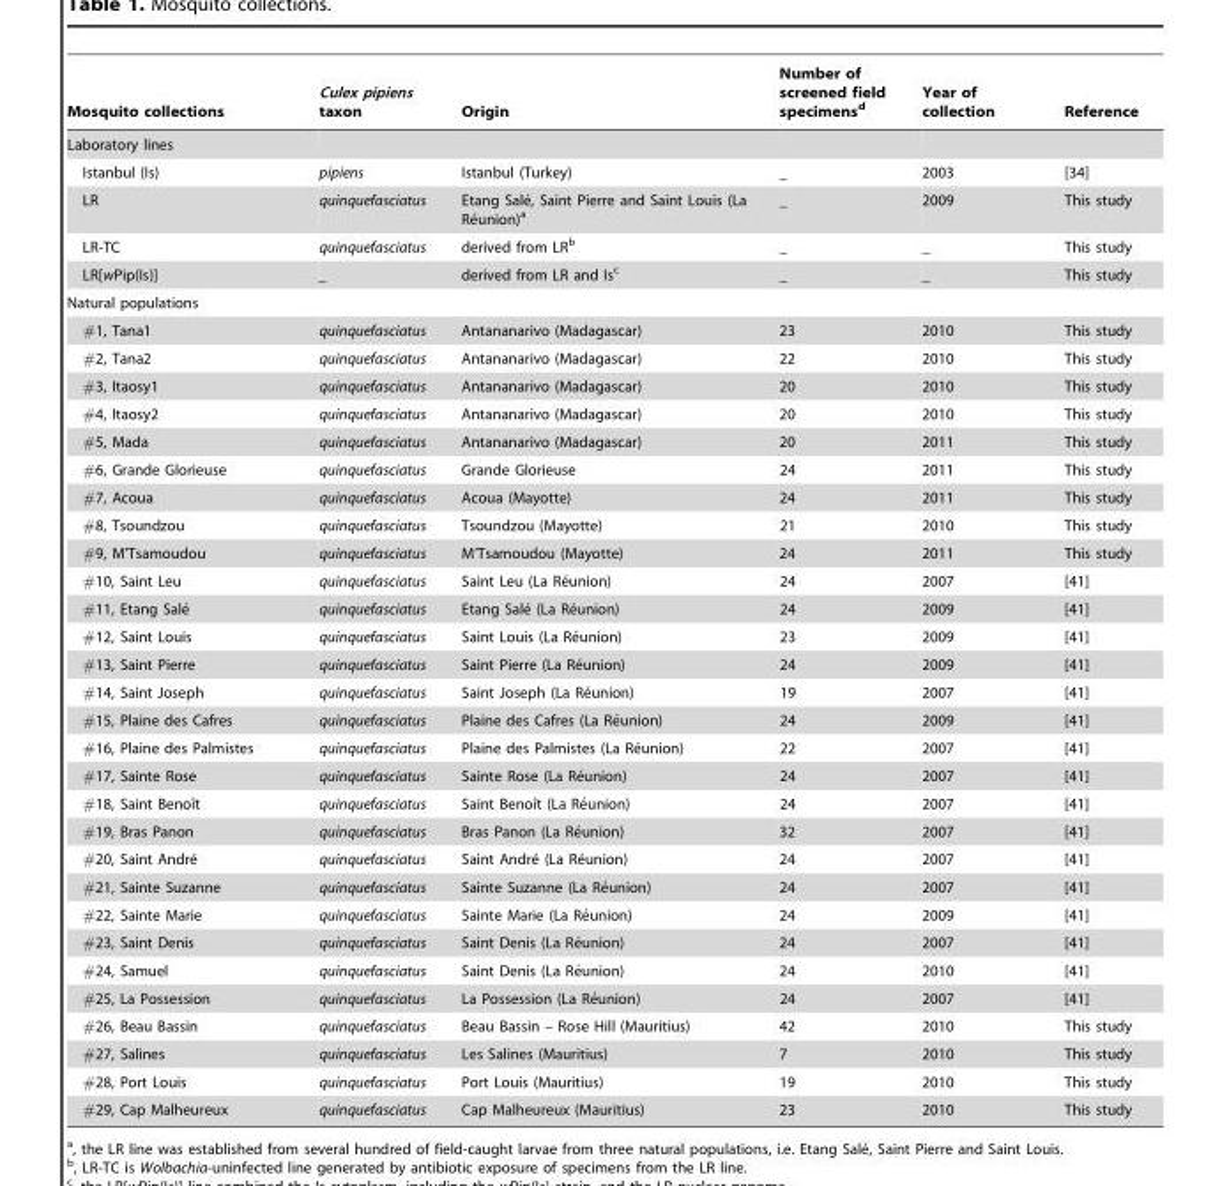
<table><thead><tr><td>Mosquito collections</td><td>Culex pipiens taxon</td><td>Origin</td><td>Number of screened field specimens<sup>d</sup></td><td>Year of collection</td><td>Reference</td></tr></thead><tbody><tr><td colspan="6">Laboratory lines</td></tr><tr><td>Istanbul (Is)</td><td>pipiens</td><td>Istanbul (Turkey)</td><td>_</td><td>2003</td><td>[34]</td></tr><tr><td>LR</td><td>quinquefasciatus</td><td>Etang Sale´, Saint Pierre and Saint Louis (La Re´union)a</td><td>_</td><td>2009</td><td>This study</td></tr><tr><td>LR-TC</td><td>quinquefasciatus</td><td>derived from LR<sup>b</sup></td><td>_</td><td>_</td><td>This study</td></tr><tr><td>LR[wPip(Is)]</td><td>_</td><td>derived from LR and Is<sup>c</sup></td><td>_</td><td>_</td><td>This study</td></tr><tr><td colspan="6">Natural populations</td></tr><tr><td>#1, Tana1</td><td>quinquefasciatus</td><td>Antananarivo (Madagascar)</td><td>23</td><td>2010</td><td>This study</td></tr><tr><td>#2, Tana2</td><td>quinquefasciatus</td><td>Antananarivo (Madagascar)</td><td>22</td><td>2010</td><td>This study</td></tr><tr><td>#3, Itaosy1</td><td>quinquefasciatus</td><td>Antananarivo (Madagascar)</td><td>20</td><td>2010</td><td>This study</td></tr><tr><td>#4, Itaosy2</td><td>quinquefasciatus</td><td>Antananarivo (Madagascar)</td><td>20</td><td>2010</td><td>This study</td></tr><tr><td>#5, Mada</td><td>quinquefasciatus</td><td>Antananarivo (Madagascar)</td><td>20</td><td>2011</td><td>This study</td></tr><tr><td>#6, Grande Glorieuse</td><td>quinquefasciatus</td><td>Grande Glorieuse</td><td>24</td><td>2011</td><td>This study</td></tr><tr><td>#7, Acoua</td><td>quinquefasciatus</td><td>Acoua (Mayotte)</td><td>24</td><td>2011</td><td>This study</td></tr><tr><td>#8, Tsoundzou</td><td>quinquefasciatus</td><td>Tsoundzou (Mayotte)</td><td>21</td><td>2010</td><td>This study</td></tr><tr><td>#9, M’Tsamoudou</td><td>quinquefasciatus</td><td>M’Tsamoudou (Mayotte)</td><td>24</td><td>2011</td><td>This study</td></tr><tr><td>#10, Saint Leu</td><td>quinquefasciatus</td><td>Saint Leu (La Re´union)</td><td>24</td><td>2007</td><td>[41]</td></tr><tr><td>#11, Etang Sale´</td><td>quinquefasciatus</td><td>Etang Sale´ (La Re´union)</td><td>24</td><td>2009</td><td>[41]</td></tr><tr><td>#12, Saint Louis</td><td>quinquefasciatus</td><td>Saint Louis (La Re´union)</td><td>23</td><td>2009</td><td>[41]</td></tr><tr><td>#13, Saint Pierre</td><td>quinquefasciatus</td><td>Saint Pierre (La Re´union)</td><td>24</td><td>2009</td><td>[41]</td></tr><tr><td>#14, Saint Joseph</td><td>quinquefasciatus</td><td>Saint Joseph (La Re´union)</td><td>19</td><td>2007</td><td>[41]</td></tr><tr><td>#15, Plaine des Cafres</td><td>quinquefasciatus</td><td>Plaine des Cafres (La Re´union)</td><td>24</td><td>2009</td><td>[41]</td></tr><tr><td>#16, Plaine des Palmistes</td><td>quinquefasciatus</td><td>Plaine des Palmistes (La Re´union)</td><td>22</td><td>2007</td><td>[41]</td></tr><tr><td>#17, Sainte Rose</td><td>quinquefasciatus</td><td>Sainte Rose (La Re´union)</td><td>24</td><td>2007</td><td>[41]</td></tr><tr><td>#18, Saint Benoıˆt</td><td>quinquefasciatus</td><td>Saint Benoıˆt (La Re´union)</td><td>24</td><td>2007</td><td>[41]</td></tr><tr><td>#19, Bras Panon</td><td>quinquefasciatus</td><td>Bras Panon (La Re´union)</td><td>32</td><td>2007</td><td>[41]</td></tr><tr><td>#20, Saint Andre´</td><td>quinquefasciatus</td><td>Saint Andre´ (La Re´union)</td><td>24</td><td>2007</td><td>[41]</td></tr><tr><td>#21, Sainte Suzanne</td><td>quinquefasciatus</td><td>Sainte Suzanne (La Re´union)</td><td>24</td><td>2007</td><td>[41]</td></tr><tr><td>#22, Sainte Marie</td><td>quinquefasciatus</td><td>Sainte Marie (La Re´union)</td><td>24</td><td>2009</td><td>[41]</td></tr><tr><td>#23, Saint Denis</td><td>quinquefasciatus</td><td>Saint Denis (La Re´union)</td><td>24</td><td>2007</td><td>[41]</td></tr><tr><td>#24, Samuel</td><td>quinquefasciatus</td><td>Saint Denis (La Re´union)</td><td>24</td><td>2010</td><td>[41]</td></tr><tr><td>#25, La Possession</td><td>quinquefasciatus</td><td>La Possession (La Re´union)</td><td>24</td><td>2007</td><td>[41]</td></tr><tr><td>#26, Beau Bassin</td><td>quinquefasciatus</td><td>Beau Bassin – Rose Hill (Mauritius)</td><td>42</td><td>2010</td><td>This study</td></tr><tr><td>#27, Salines</td><td>quinquefasciatus</td><td>Les Salines (Mauritius)</td><td>7</td><td>2010</td><td>This study</td></tr><tr><td>#28, Port Louis</td><td>quinquefasciatus</td><td>Port Louis (Mauritius)</td><td>19</td><td>2010</td><td>This study</td></tr><tr><td>#29, Cap Malheureux</td><td>quinquefasciatus</td><td>Cap Malheureux (Mauritius)</td><td>23</td><td>2010</td><td>This study</td></tr></tbody></table>